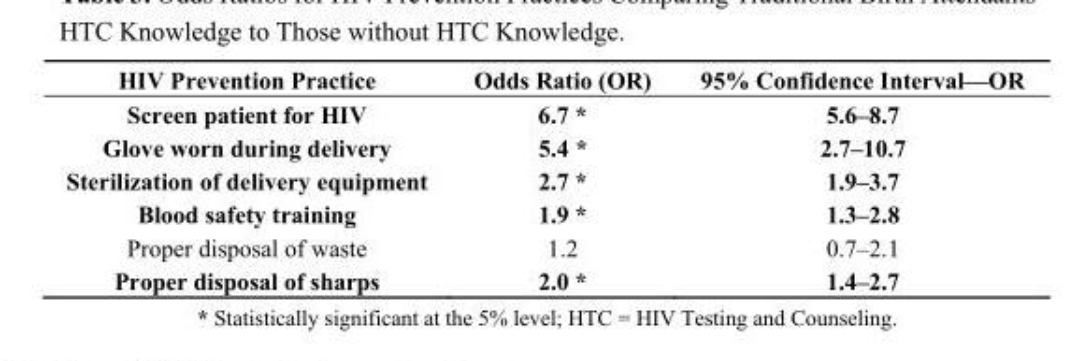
<table><thead><tr><td>HIV Prevention Practice</td><td>Odds Ratio (OR)</td><td>95% Confidence Interval—OR</td></tr></thead><tbody><tr><td>Screen patient for HIV</td><td>6.7 *</td><td>5.6–8.7</td></tr><tr><td>Glove worn during delivery</td><td>5.4 *</td><td>2.7–10.7</td></tr><tr><td>Sterilization of delivery equipment</td><td>2.7 *</td><td>1.9–3.7</td></tr><tr><td>Blood safety training</td><td>1.9 *</td><td>1.3–2.8</td></tr><tr><td>Proper disposal of waste</td><td>1.2</td><td>0.7–2.1</td></tr><tr><td>Proper disposal of sharps</td><td>2.0 *</td><td>1.4–2.7</td></tr></tbody></table>